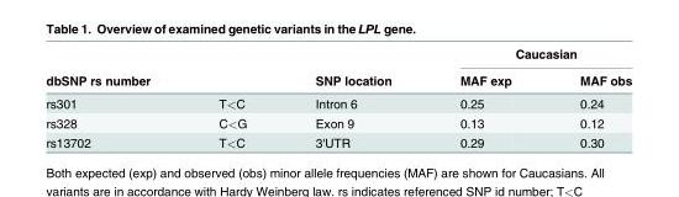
<table><thead><tr><td rowspan="2">dbSNP rs number</td><td rowspan="2"></td><td rowspan="2">SNP location</td><td colspan="2">Caucasian</td></tr><tr><td>MAF exp</td><td>MAF obs</td></tr></thead><tbody><tr><td>rs301</td><td>T&lt;C</td><td>Intron 6</td><td>0.25</td><td>0.24</td></tr><tr><td>rs328</td><td>C&lt;G</td><td>Exon 9</td><td>0.13</td><td>0.12</td></tr><tr><td>rs13702</td><td>T&lt;C</td><td>3&#x27;UTR</td><td>0.29</td><td>0.30</td></tr></tbody></table>